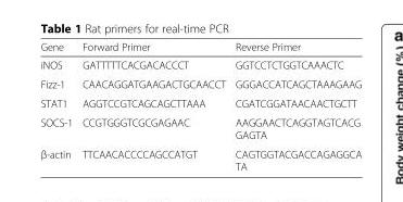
<table><thead><tr><td>Gene</td><td>Forward Primer</td><td>Reverse Primer</td></tr></thead><tbody><tr><td>iNOS</td><td>GATTTTTCACGACACCCT</td><td>GGTCCTCTGGTCAAACTC</td></tr><tr><td>Fizz-1</td><td>CAACAGGATGAAGACTGCAACCT</td><td>GGGACCATCAGCTAAAGAAG</td></tr><tr><td>STAT1</td><td>AGGTCCGTCAGCAGCTTAAA</td><td>CGATCGGATAACAACTGCTT</td></tr><tr><td>SOCS-1</td><td>CCGTGGGTCGCGAGAAC</td><td>AAGGAACTCAGGTAGTCACG GAGTA</td></tr><tr><td>β-actin</td><td>TTCAACACCCCAGCCATGT</td><td>CAGTGGTACGACCAGAGGCA</td></tr></tbody></table>